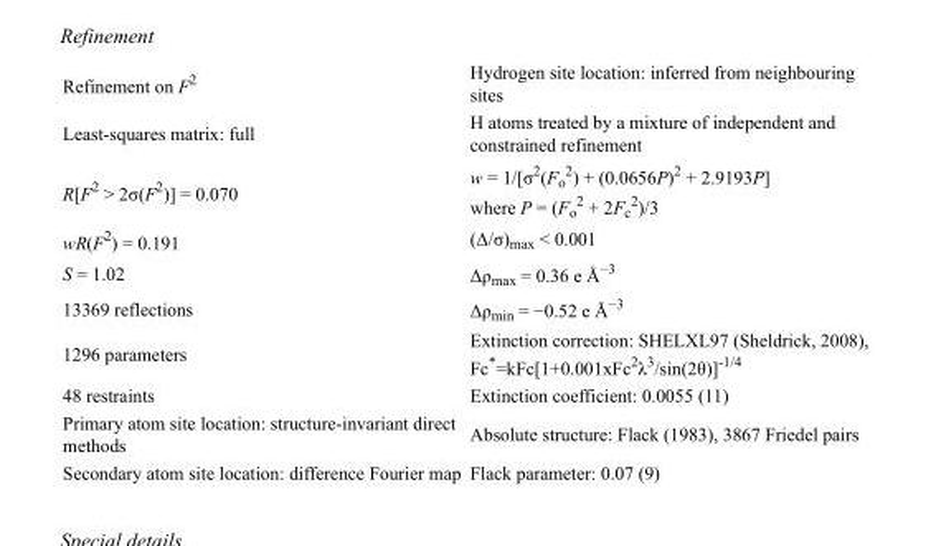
<table><tbody><tr><td>Refinement on F<sup>2</sup></td><td>Hydrogen site location: inferred from neighbouring sites</td></tr><tr><td>Least-squares matrix: full</td><td>H atoms treated by a mixture of independent and constrained refinement</td></tr><tr><td>R[F<sup>2</sup> &gt; 2σ(F<sup>2</sup>)] = 0.070</td><td>w = 1/[σ<sup>2</sup>(F<sub>o</sub> <sup>2</sup>) + (0.0656P)<sup>2</sup> + 2.9193P] where P = (F<sub>o</sub> <sup>2</sup> + 2F<sub>c</sub> <sup>2</sup>)/3</td></tr><tr><td>wR(F<sup>2</sup>) = 0.191</td><td>(Δ/σ)<sub>max</sub> &lt; 0.001</td></tr><tr><td>S = 1.02</td><td>Δρ<sub>max</sub> = 0.36 e Å<sup>−3</sup></td></tr><tr><td>13369 reflections</td><td>Δρ<sub>min</sub> = −0.52 e Å<sup>−3</sup></td></tr><tr><td>1296 parameters</td><td>Extinction correction: SHELXL97 (Sheldrick, 2008), Fc*=kFc[1+0.001xFc<sup>2</sup>λ<sup>3</sup>/sin(2θ)]<sup>-1/4</sup></td></tr><tr><td>48 restraints</td><td>Extinction coefficient: 0.0055 (11)</td></tr><tr><td>Primary atom site location: structure-invariant direct methods</td><td>Absolute structure: Flack (1983), 3867 Friedel pairs</td></tr><tr><td>Secondary atom site location: difference Fourier map</td><td>Flack parameter: 0.07 (9)</td></tr></tbody></table>